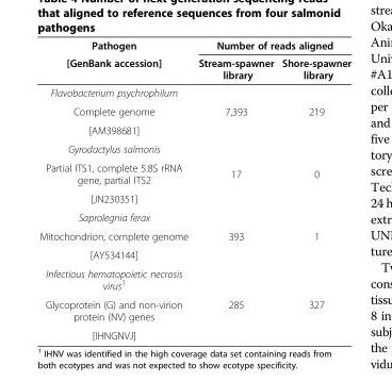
<table><thead><tr><td rowspan="2">Pathogen [GenBank accession]</td><td colspan="2">Number of reads aligned</td></tr><tr><td>Stream-spawner library</td><td>Shore-spawner library</td></tr></thead><tbody><tr><td>Flavobacterium psychrophilum</td><td rowspan="3">7,393</td><td rowspan="3">219</td></tr><tr><td>Complete genome</td></tr><tr><td>[AM398681]</td></tr><tr><td>Gyrodactylus salmonis</td><td rowspan="3">17</td><td rowspan="3">0</td></tr><tr><td>Partial ITS1, complete 5.8S rRNA gene, partial ITS2</td></tr><tr><td>[JN230351]</td></tr><tr><td>Saprolegnia ferax</td><td rowspan="3">393</td><td rowspan="3">1</td></tr><tr><td>Mitochondrion, complete genome</td></tr><tr><td>[AY534144]</td></tr><tr><td>Infectious hematopoietic necrosis virus<sup>1</sup></td><td rowspan="2">285</td><td rowspan="2">327</td></tr><tr><td>Glycoprotein (G) and non-virion protein (NV) genes</td></tr><tr><td>[IHNGNVJ]</td><td></td><td></td></tr></tbody></table>